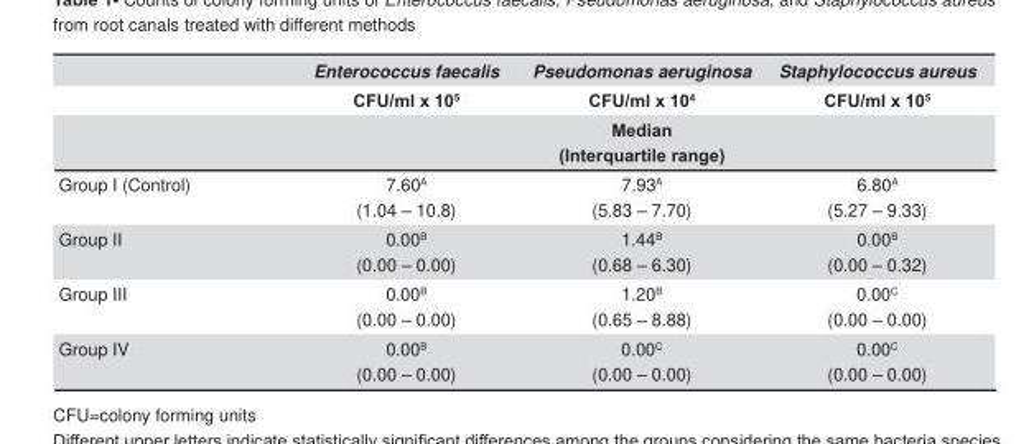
<table><thead><tr><td rowspan="3"></td><td rowspan="2">Enterococcus faecalis CFU/ml x 105</td><td rowspan="2">Pseudomonas aeruginosa CFU/ml x 10<sup>4</sup></td><td rowspan="2">Staphylococcus aureus CFU/ml x 105</td></tr><tr></tr><tr><td colspan="3">Median (Interquartile range)</td></tr></thead><tbody><tr><td>Group I (Control)</td><td>7.60<sup>A</sup> (1.04 – 10.8)</td><td>7.93<sup>A</sup> (5.83 – 7.70)</td><td>6.80<sup>A</sup> (5.27 – 9.33)</td></tr><tr><td>Group II</td><td>0.00<sup>B</sup> (0.00 – 0.00)</td><td>1.44<sup>B</sup> (0.68 – 6.30)</td><td>0.00<sup>B</sup> (0.00 – 0.32)</td></tr><tr><td>Group III</td><td>0.00<sup>B</sup> (0.00 – 0.00)</td><td>1.20<sup>B</sup> (0.65 – 8.88)</td><td>0.00<sup>C</sup> (0.00 – 0.00)</td></tr><tr><td>Group IV</td><td>0.00<sup>B</sup> (0.00 – 0.00)</td><td>0.00<sup>C</sup> (0.00 – 0.00)</td><td>0.00<sup>C</sup> (0.00 – 0.00)</td></tr></tbody></table>